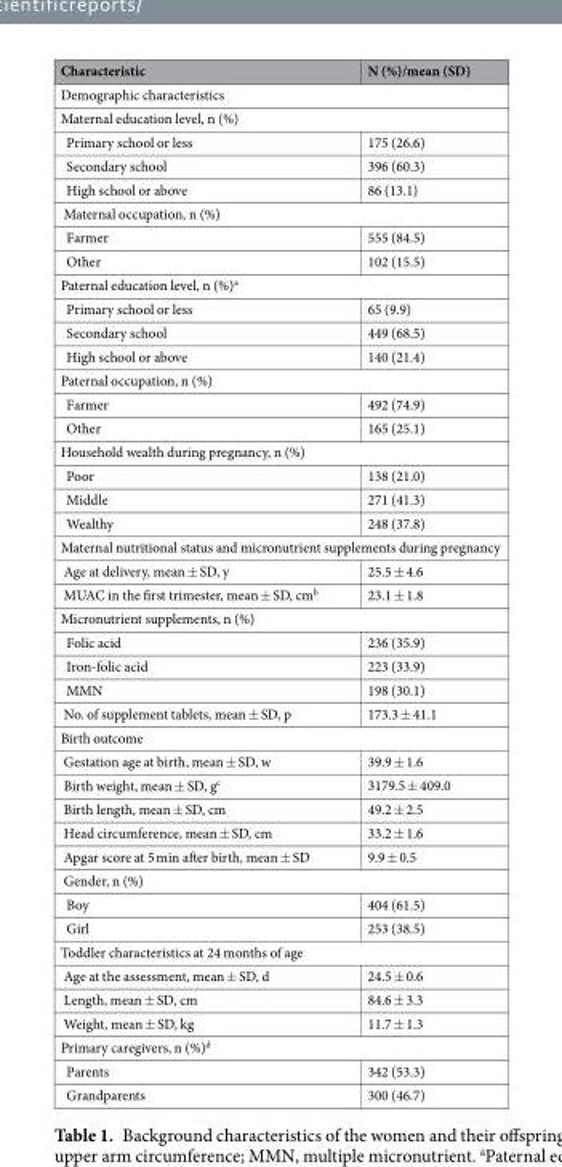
<table><thead><tr><td>Characteristic</td><td>N (%)/mean (SD)</td></tr></thead><tbody><tr><td colspan="2">Demographic characteristics</td></tr><tr><td colspan="2">Maternal education level, n (%)</td></tr><tr><td>Primary school or less</td><td>175 (26.6)</td></tr><tr><td>Secondary school</td><td>396 (60.3)</td></tr><tr><td>High school or above</td><td>86 (13.1)</td></tr><tr><td colspan="2">Maternal occupation, n (%)</td></tr><tr><td>Farmer</td><td>555 (84.5)</td></tr><tr><td>Other</td><td>102 (15.5)</td></tr><tr><td colspan="2">Paternal education level, n (%)<sup>a</sup></td></tr><tr><td>Primary school or less</td><td>65 (9.9)</td></tr><tr><td>Secondary school</td><td>449 (68.5)</td></tr><tr><td>High school or above</td><td>140 (21.4)</td></tr><tr><td colspan="2">Paternal occupation, n (%)</td></tr><tr><td>Farmer</td><td>492 (74.9)</td></tr><tr><td>Other</td><td>165 (25.1)</td></tr><tr><td colspan="2">Household wealth during pregnancy, n (%)</td></tr><tr><td>Poor</td><td>138 (21.0)</td></tr><tr><td>Middle</td><td>271 (41.3)</td></tr><tr><td>Wealthy</td><td>248 (37.8)</td></tr><tr><td colspan="2">Maternal nutritional status and micronutrient supplements during pregnancy</td></tr><tr><td>Age at delivery, mean ± SD, y</td><td>25.5 ± 4.6</td></tr><tr><td>MUAC in the first trimester, mean ± SD, cm<sup>b</sup></td><td>23.1 ± 1.8</td></tr><tr><td colspan="2">Micronutrient supplements, n (%)</td></tr><tr><td>Folic acid</td><td>236 (35.9)</td></tr><tr><td>Iron-folic acid</td><td>223 (33.9)</td></tr><tr><td>MMN</td><td>198 (30.1)</td></tr><tr><td>No. of supplement tablets, mean ± SD, p</td><td>173.3 ± 41.1</td></tr><tr><td colspan="2">Birth outcome</td></tr><tr><td>Gestation age at birth, mean ± SD, w</td><td>39.9 ± 1.6</td></tr><tr><td>Birth weight, mean ± SD, g<sup>c</sup></td><td>3179.5 ± 409.0</td></tr><tr><td>Birth length, mean ± SD, cm</td><td>49.2 ± 2.5</td></tr><tr><td>Head circumference, mean ± SD, cm</td><td>33.2 ± 1.6</td></tr><tr><td>Apgar score at 5 min after birth, mean ± SD</td><td>9.9 ± 0.5</td></tr><tr><td colspan="2">Gender, n (%)</td></tr><tr><td>Boy</td><td>404 (61.5)</td></tr><tr><td>Girl</td><td>253 (38.5)</td></tr><tr><td colspan="2">Toddler characteristics at 24 months of age</td></tr><tr><td>Age at the assessment, mean ± SD, d</td><td>24.5 ± 0.6</td></tr><tr><td>Length, mean ± SD, cm</td><td>84.6 ± 3.3</td></tr><tr><td>Weight, mean ± SD, kg</td><td>11.7 ± 1.3</td></tr><tr><td colspan="2">Primary caregivers, n (%)<sup>d</sup></td></tr><tr><td>Parents</td><td>342 (53.3)</td></tr><tr><td>Grandparents</td><td>300 (46.7)</td></tr></tbody></table>